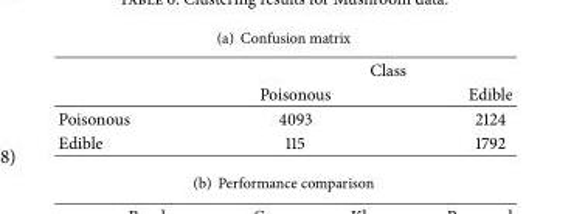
<table><thead><tr><td rowspan="2"></td><td colspan="2">Class</td></tr><tr><td>Poisonous</td><td>Edible</td></tr></thead><tbody><tr><td>Poisonous</td><td>4093</td><td>2124</td></tr><tr><td>Edible</td><td>115</td><td>1792</td></tr></tbody></table>